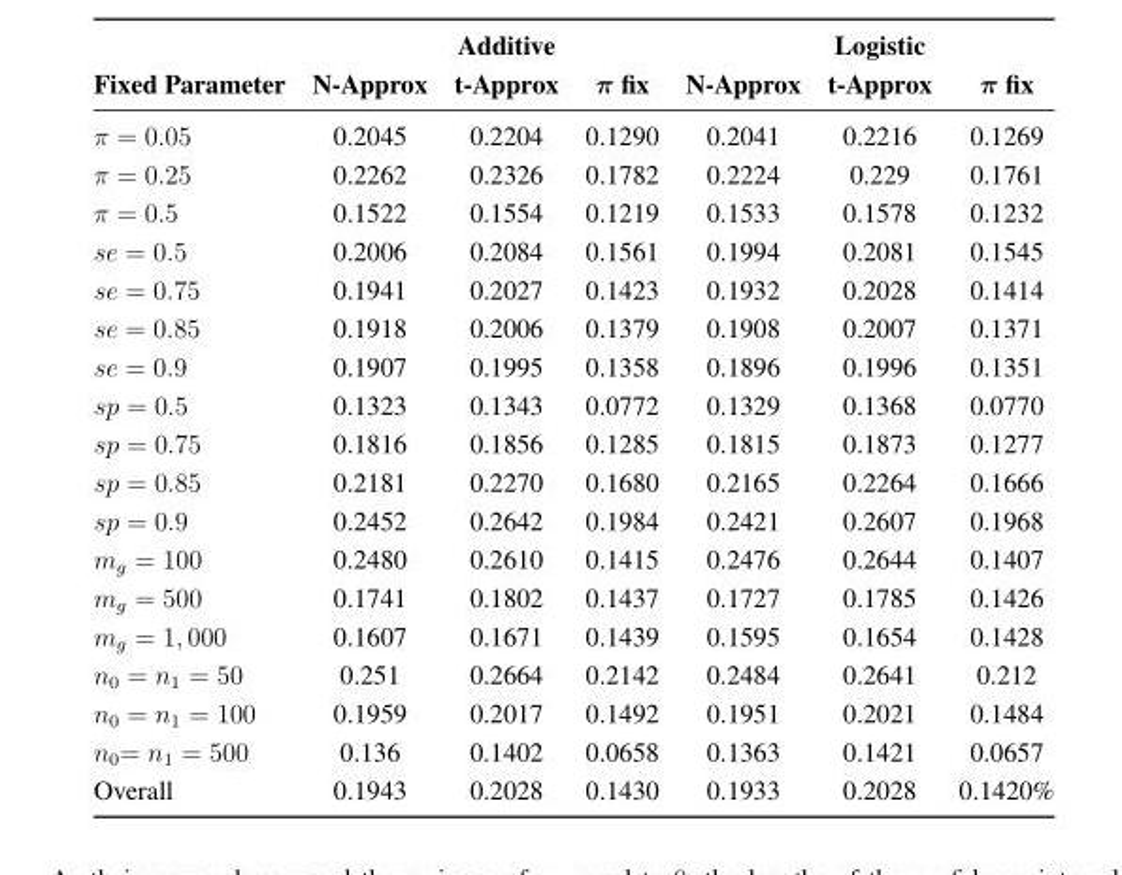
<table><thead><tr><td>Fixed Parameter</td><td>N-Approx</td><td>t-Approx</td><td>π fix</td><td>N-Approx</td><td>t-Approx</td><td>π fix</td></tr></thead><tbody><tr><td>π = 0.05</td><td>0.2045</td><td>0.2204</td><td>0.1290</td><td>0.2041</td><td>0.2216</td><td>0.1269</td></tr><tr><td>π = 0.25</td><td>0.2262</td><td>0.2326</td><td>0.1782</td><td>0.2224</td><td>0.229</td><td>0.1761</td></tr><tr><td>π = 0.5</td><td>0.1522</td><td>0.1554</td><td>0.1219</td><td>0.1533</td><td>0.1578</td><td>0.1232</td></tr><tr><td>se = 0.5</td><td>0.2006</td><td>0.2084</td><td>0.1561</td><td>0.1994</td><td>0.2081</td><td>0.1545</td></tr><tr><td>se = 0.75</td><td>0.1941</td><td>0.2027</td><td>0.1423</td><td>0.1932</td><td>0.2028</td><td>0.1414</td></tr><tr><td>se = 0.85</td><td>0.1918</td><td>0.2006</td><td>0.1379</td><td>0.1908</td><td>0.2007</td><td>0.1371</td></tr><tr><td>se = 0.9</td><td>0.1907</td><td>0.1995</td><td>0.1358</td><td>0.1896</td><td>0.1996</td><td>0.1351</td></tr><tr><td>sp = 0.5</td><td>0.1323</td><td>0.1343</td><td>0.0772</td><td>0.1329</td><td>0.1368</td><td>0.0770</td></tr><tr><td>sp = 0.75</td><td>0.1816</td><td>0.1856</td><td>0.1285</td><td>0.1815</td><td>0.1873</td><td>0.1277</td></tr><tr><td>sp = 0.85</td><td>0.2181</td><td>0.2270</td><td>0.1680</td><td>0.2165</td><td>0.2264</td><td>0.1666</td></tr><tr><td>sp = 0.9</td><td>0.2452</td><td>0.2642</td><td>0.1984</td><td>0.2421</td><td>0.2607</td><td>0.1968</td></tr><tr><td>m<sub>g</sub> = 100</td><td>0.2480</td><td>0.2610</td><td>0.1415</td><td>0.2476</td><td>0.2644</td><td>0.1407</td></tr><tr><td>m<sub>g</sub> = 500</td><td>0.1741</td><td>0.1802</td><td>0.1437</td><td>0.1727</td><td>0.1785</td><td>0.1426</td></tr><tr><td>m<sub>g</sub> = 1, 000</td><td>0.1607</td><td>0.1671</td><td>0.1439</td><td>0.1595</td><td>0.1654</td><td>0.1428</td></tr><tr><td>n<sub>0</sub> = n<sub>1</sub> = 50</td><td>0.251</td><td>0.2664</td><td>0.2142</td><td>0.2484</td><td>0.2641</td><td>0.212</td></tr><tr><td>n<sub>0</sub> = n<sub>1</sub> = 100</td><td>0.1959</td><td>0.2017</td><td>0.1492</td><td>0.1951</td><td>0.2021</td><td>0.1484</td></tr><tr><td>n<sub>0</sub>= n<sub>1</sub> = 500</td><td>0.136</td><td>0.1402</td><td>0.0658</td><td>0.1363</td><td>0.1421</td><td>0.0657</td></tr><tr><td>Overall</td><td>0.1943</td><td>0.2028</td><td>0.1430</td><td>0.1933</td><td>0.2028</td><td>0.1420%</td></tr></tbody></table>